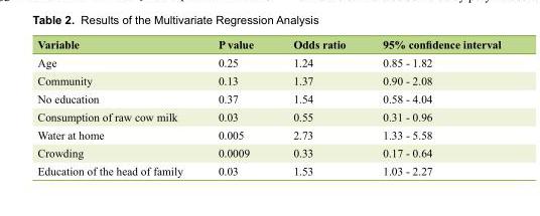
<table><thead><tr><td>Variable</td><td>P value</td><td>Odds ratio</td><td>95% confidence interval</td></tr></thead><tbody><tr><td>Age</td><td>0.25</td><td>1.24</td><td>0.85 - 1.82</td></tr><tr><td>Community</td><td>0.13</td><td>1.37</td><td>0.90 - 2.08</td></tr><tr><td>No education</td><td>0.37</td><td>1.54</td><td>0.58 - 4.04</td></tr><tr><td>Consumption of raw cow milk</td><td>0.03</td><td>0.55</td><td>0.31 - 0.96</td></tr><tr><td>Water at home</td><td>0.005</td><td>2.73</td><td>1.33 - 5.58</td></tr><tr><td>Crowding</td><td>0.0009</td><td>0.33</td><td>0.17 - 0.64</td></tr><tr><td>Education of the head of family</td><td>0.03</td><td>1.53</td><td>1.03 - 2.27</td></tr></tbody></table>